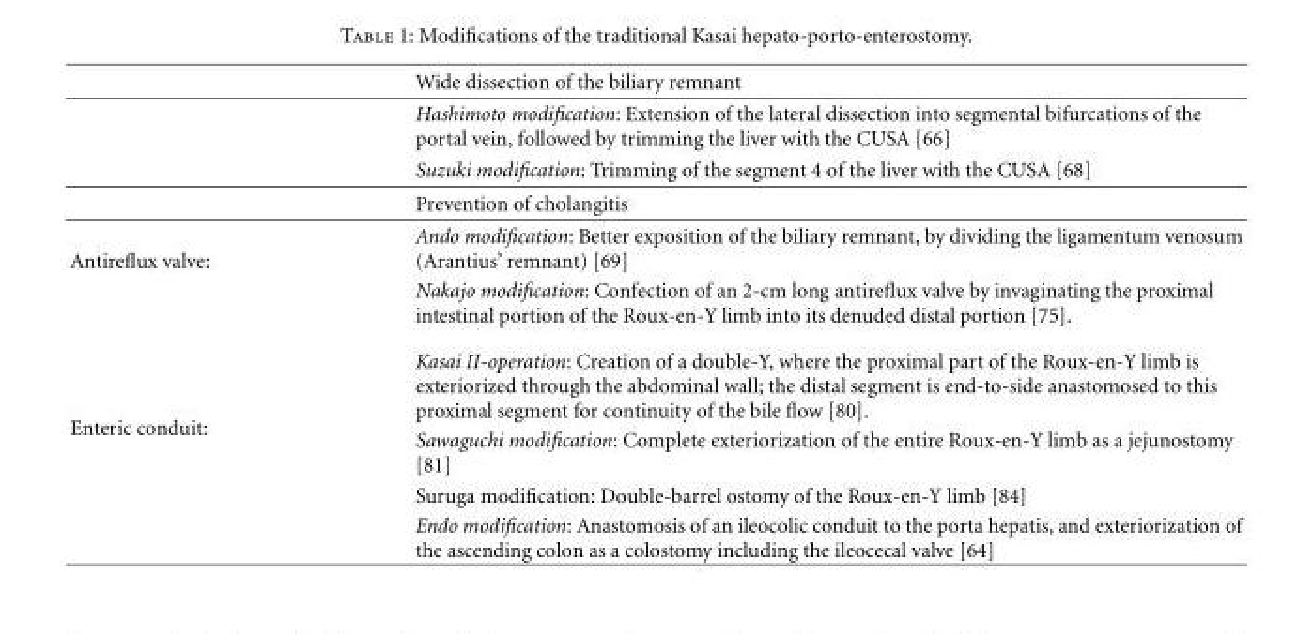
<table><thead><tr><td></td><td>Wide dissection of the biliary remnant</td></tr></thead><tbody><tr><td></td><td>Hashimoto modification: Extension of the lateral dissection into segmental bifurcations of the portal vein, followed by trimming the liver with the CUSA [66]</td></tr><tr><td></td><td>Suzuki modification: Trimming of the segment 4 of the liver with the CUSA [68]</td></tr><tr><td></td><td>Prevention of cholangitis</td></tr><tr><td rowspan="2">Antireflux valve:</td><td>Ando modification: Better exposition of the biliary remnant, by dividing the ligamentum venosum (Arantius’ remnant) [69]</td></tr><tr><td>Nakajo modification: Confection of an 2-cm long antireflux valve by invaginating the proximal intestinal portion of the Roux-en-Y limb into its denuded distal portion [75].</td></tr><tr><td rowspan="4">Enteric conduit:</td><td>Kasai II-operation: Creation of a double-Y, where the proximal part of the Roux-en-Y limb is exteriorized through the abdominal wall; the distal segment is end-to-side anastomosed to this proximal segment for continuity of the bile flow [80].</td></tr><tr><td>Sawaguchi modification: Complete exteriorization of the entire Roux-en-Y limb as a jejunostomy [81]</td></tr><tr><td>Suruga modification: Double-barrel ostomy of the Roux-en-Y limb [84]</td></tr><tr><td>Endo modification: Anastomosis of an ileocolic conduit to the porta hepatis, and exteriorization of the ascending colon as a colostomy including the ileocecal valve [64]</td></tr></tbody></table>